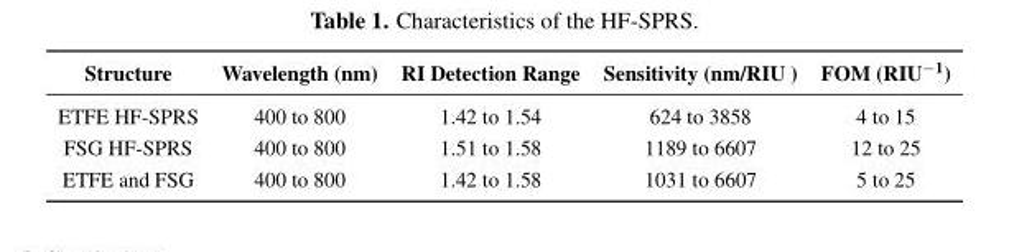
<table><thead><tr><td>Structure</td><td>Wavelength (nm)</td><td>RI Detection Range</td><td>Sensitivity (nm/RIU )</td><td>FOM (RIU<sup>−1</sup>)</td></tr></thead><tbody><tr><td>ETFE HF-SPRS</td><td>400 to 800</td><td>1.42 to 1.54</td><td>624 to 3858</td><td>4 to 15</td></tr><tr><td>FSG HF-SPRS</td><td>400 to 800</td><td>1.51 to 1.58</td><td>1189 to 6607</td><td>12 to 25</td></tr><tr><td>ETFE and FSG</td><td>400 to 800</td><td>1.42 to 1.58</td><td>1031 to 6607</td><td>5 to 25</td></tr></tbody></table>